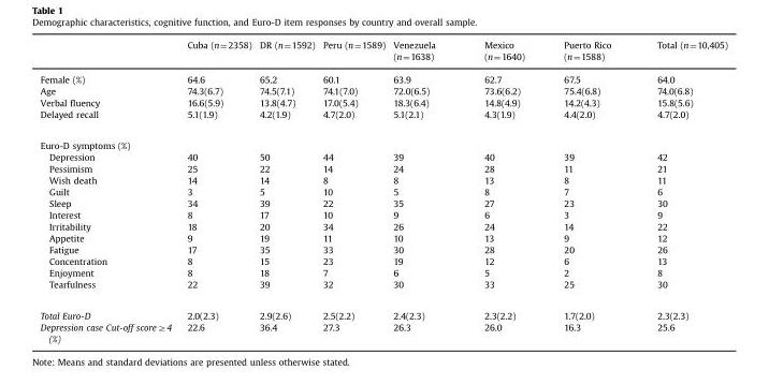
<table><thead><tr><td></td><td>Cuba (n=2358)</td><td>DR (n=1592)</td><td>Peru (n=1589)</td><td>Venezuela (n=1638)</td><td>Mexico (n=1640)</td><td>Puerto Rico (n=1588)</td><td>Total (n=10,405)</td></tr></thead><tbody><tr><td>Female (%)</td><td>64.6</td><td>65.2</td><td>60.1</td><td>63.9</td><td>62.7</td><td>67.5</td><td>64.0</td></tr><tr><td>Age</td><td>74.3(6.7)</td><td>74.5(7.1)</td><td>74.1(7.0)</td><td>72.0(6.5)</td><td>73.6(6.2)</td><td>75.4(6.8)</td><td>74.0(6.8)</td></tr><tr><td>Verbal fluency</td><td>16.6(5.9)</td><td>13.8(4.7)</td><td>17.0(5.4)</td><td>18.3(6.4)</td><td>14.8(4.9)</td><td>14.2(4.3)</td><td>15.8(5.6)</td></tr><tr><td>Delayed recall</td><td>5.1(1.9)</td><td>4.2(1.9)</td><td>4.7(2.0)</td><td>5.1(2.1)</td><td>4.3(1.9)</td><td>4.4(2.0)</td><td>4.7(2.0)</td></tr><tr><td colspan="8">Euro-D symptoms (%)</td></tr><tr><td>Depression</td><td>40</td><td>50</td><td>44</td><td>39</td><td>40</td><td>39</td><td>42</td></tr><tr><td>Pessimism</td><td>25</td><td>22</td><td>14</td><td>24</td><td>28</td><td>11</td><td>21</td></tr><tr><td>Wish death</td><td>14</td><td>14</td><td>8</td><td>8</td><td>13</td><td>8</td><td>11</td></tr><tr><td>Guilt</td><td>3</td><td>5</td><td>10</td><td>5</td><td>8</td><td>7</td><td>6</td></tr><tr><td>Sleep</td><td>34</td><td>39</td><td>22</td><td>35</td><td>27</td><td>23</td><td>30</td></tr><tr><td>Interest</td><td>8</td><td>17</td><td>10</td><td>9</td><td>6</td><td>3</td><td>9</td></tr><tr><td>Irritability</td><td>18</td><td>20</td><td>34</td><td>26</td><td>24</td><td>14</td><td>22</td></tr><tr><td>Appetite</td><td>9</td><td>19</td><td>11</td><td>10</td><td>13</td><td>9</td><td>12</td></tr><tr><td>Fatigue</td><td>17</td><td>35</td><td>33</td><td>30</td><td>28</td><td>20</td><td>26</td></tr><tr><td>Concentration</td><td>8</td><td>15</td><td>23</td><td>19</td><td>12</td><td>6</td><td>13</td></tr><tr><td>Enjoyment</td><td>8</td><td>18</td><td>7</td><td>6</td><td>5</td><td>2</td><td>8</td></tr><tr><td>Tearfulness</td><td>22</td><td>39</td><td>32</td><td>30</td><td>33</td><td>25</td><td>30</td></tr><tr><td>Total Euro-D</td><td>2.0(2.3)</td><td>2.9(2.6)</td><td>2.5(2.2)</td><td>2.4(2.3)</td><td>2.3(2.2)</td><td>1.7(2.0)</td><td>2.3(2.3)</td></tr><tr><td>Depression case Cut-off score≥4 (%)</td><td>22.6</td><td>36.4</td><td>27.3</td><td>26.3</td><td>26.0</td><td>16.3</td><td>25.6</td></tr></tbody></table>